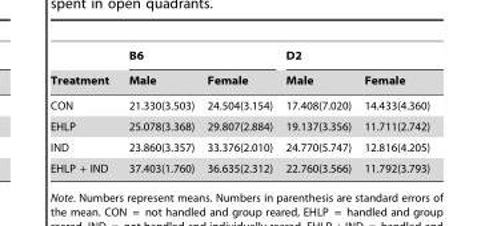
<table><thead><tr><td rowspan="2">Treatment</td><td colspan="2">B6</td><td colspan="2">D2</td></tr><tr><td>Male</td><td>Female</td><td>Male</td><td>Female</td></tr></thead><tbody><tr><td>CON</td><td>21.330(3.503)</td><td>24.504(3.154)</td><td>17.408(7.020)</td><td>14.433(4.360)</td></tr><tr><td>EHLP</td><td>25.078(3.368)</td><td>29.807(2.884)</td><td>19.137(3.356)</td><td>11.711(2.742)</td></tr><tr><td>IND</td><td>23.860(3.357)</td><td>33.376(2.010)</td><td>24.770(5.747)</td><td>12.816(4.205)</td></tr><tr><td>EHLP + IND</td><td>37.403(1.760)</td><td>36.635(2.312)</td><td>22.760(3.566)</td><td>11.792(3.793)</td></tr></tbody></table>